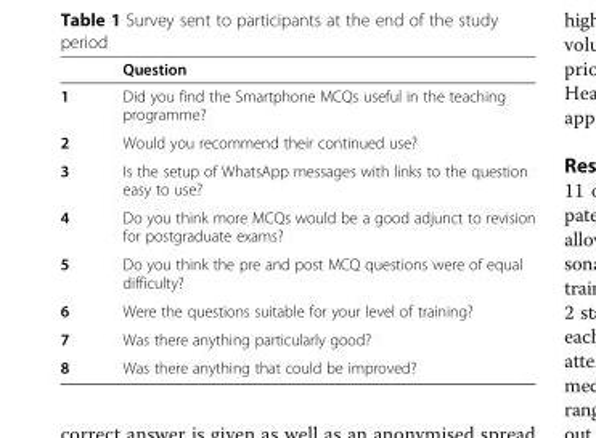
<table><thead><tr><td></td><td>Question</td></tr></thead><tbody><tr><td>1</td><td>Did you find the Smartphone MCQs useful in the teaching programme?</td></tr><tr><td>2</td><td>Would you recommend their continued use?</td></tr><tr><td>3</td><td>Is the setup of WhatsApp messages with links to the question easy to use?</td></tr><tr><td>4</td><td>Do you think more MCQs would be a good adjunct to revision for postgraduate exams?</td></tr><tr><td>5</td><td>Do you think the pre and post MCQ questions were of equal difficulty?</td></tr><tr><td>6</td><td>Were the questions suitable for your level of training?</td></tr><tr><td>7</td><td>Was there anything particularly good?</td></tr><tr><td>8</td><td>Was there anything that could be improved?</td></tr></tbody></table>